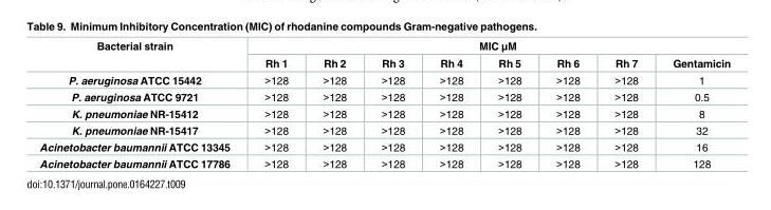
<table><thead><tr><td rowspan="2">Bacterial strain</td><td colspan="8">MIC μM</td></tr><tr><td>Rh 1</td><td>Rh 2</td><td>Rh 3</td><td>Rh 4</td><td>Rh 5</td><td>Rh 6</td><td>Rh 7</td><td>Gentamicin</td></tr></thead><tbody><tr><td>P. aeruginosa ATCC 15442</td><td>&gt;128</td><td>&gt;128</td><td>&gt;128</td><td>&gt;128</td><td>&gt;128</td><td>&gt;128</td><td>&gt;128</td><td>1</td></tr><tr><td>P. aeruginosa ATCC 9721</td><td>&gt;128</td><td>&gt;128</td><td>&gt;128</td><td>&gt;128</td><td>&gt;128</td><td>&gt;128</td><td>&gt;128</td><td>0.5</td></tr><tr><td>K. pneumoniae NR-15412</td><td>&gt;128</td><td>&gt;128</td><td>&gt;128</td><td>&gt;128</td><td>&gt;128</td><td>&gt;128</td><td>&gt;128</td><td>8</td></tr><tr><td>K. pneumoniae NR-15417</td><td>&gt;128</td><td>&gt;128</td><td>&gt;128</td><td>&gt;128</td><td>&gt;128</td><td>&gt;128</td><td>&gt;128</td><td>32</td></tr><tr><td>Acinetobacter baumannii ATCC 13345</td><td>&gt;128</td><td>&gt;128</td><td>&gt;128</td><td>&gt;128</td><td>&gt;128</td><td>&gt;128</td><td>&gt;128</td><td>16</td></tr><tr><td>Acinetobacter baumannii ATCC 17786</td><td>&gt;128</td><td>&gt;128</td><td>&gt;128</td><td>&gt;128</td><td>&gt;128</td><td>&gt;128</td><td>&gt;128</td><td>128</td></tr></tbody></table>